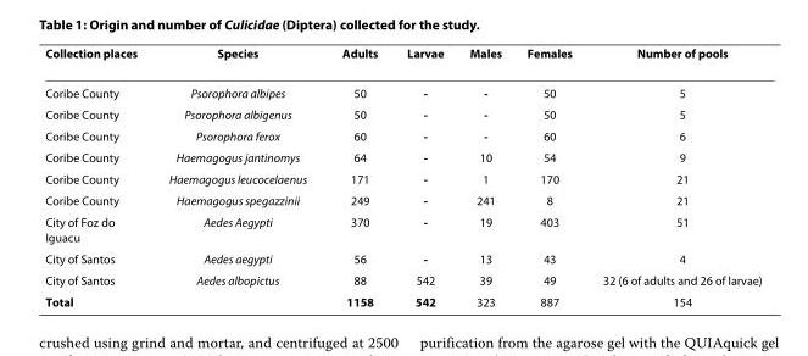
<table><thead><tr><td>Collection places</td><td>Species</td><td>Adults</td><td>Larvae</td><td>Males</td><td>Females</td><td>Number of pools</td></tr></thead><tbody><tr><td>Coribe County</td><td>Psorophora albipes</td><td>50</td><td>-</td><td>-</td><td>50</td><td>5</td></tr><tr><td>Coribe County</td><td>Psorophora albigenus</td><td>50</td><td>-</td><td>-</td><td>50</td><td>5</td></tr><tr><td>Coribe County</td><td>Psorophora ferox</td><td>60</td><td>-</td><td>-</td><td>60</td><td>6</td></tr><tr><td>Coribe County</td><td>Haemagogus jantinomys</td><td>64</td><td>-</td><td>10</td><td>54</td><td>9</td></tr><tr><td>Coribe County</td><td>Haemagogus leucocelaenus</td><td>171</td><td>-</td><td>1</td><td>170</td><td>21</td></tr><tr><td>Coribe County</td><td>Haemagogus spegazzinii</td><td>249</td><td>-</td><td>241</td><td>8</td><td>21</td></tr><tr><td>City of Foz do Iguacu</td><td>Aedes Aegypti</td><td>370</td><td>-</td><td>19</td><td>403</td><td>51</td></tr><tr><td>City of Santos</td><td>Aedes aegypti</td><td>56</td><td>-</td><td>13</td><td>43</td><td>4</td></tr><tr><td>City of Santos</td><td>Aedes albopictus</td><td>88</td><td>542</td><td>39</td><td>49</td><td>32 (6 of adults and 26 of larvae)</td></tr><tr><td>Total</td><td></td><td>1158</td><td>542</td><td>323</td><td>887</td><td>154</td></tr></tbody></table>